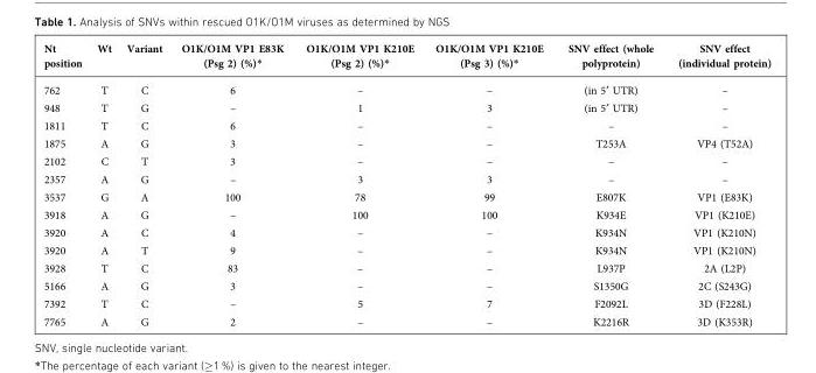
<table><thead><tr><td>Nt position</td><td>Wt</td><td>Variant</td><td>O1K/O1M VP1 E83K (Psg 2) (%)*</td><td>O1K/O1M VP1 K210E (Psg 2) (%)*</td><td>O1K/O1M VP1 K210E (Psg 3) (%)*</td><td>SNV effect (whole polyprotein)</td><td>SNV effect (individual protein)</td></tr></thead><tbody><tr><td>762</td><td>T</td><td>C</td><td>6</td><td>–</td><td>–</td><td>(in 5¢ UTR)</td><td>–</td></tr><tr><td>948</td><td>T</td><td>G</td><td>–</td><td>1</td><td>3</td><td>(in 5¢ UTR)</td><td>–</td></tr><tr><td>1811</td><td>T</td><td>C</td><td>6</td><td>–</td><td>–</td><td>–</td><td>–</td></tr><tr><td>1875</td><td>A</td><td>G</td><td>3</td><td>–</td><td>–</td><td>T253A</td><td>VP4 (T52A)</td></tr><tr><td>2102</td><td>C</td><td>T</td><td>3</td><td>–</td><td>–</td><td>–</td><td>–</td></tr><tr><td>2357</td><td>A</td><td>G</td><td>–</td><td>3</td><td>3</td><td>–</td><td>–</td></tr><tr><td>3537</td><td>G</td><td>A</td><td>100</td><td>78</td><td>99</td><td>E807K</td><td>VP1 (E83K)</td></tr><tr><td>3918</td><td>A</td><td>G</td><td>–</td><td>100</td><td>100</td><td>K934E</td><td>VP1 (K210E)</td></tr><tr><td>3920</td><td>A</td><td>C</td><td>4</td><td>–</td><td>–</td><td>K934N</td><td>VP1 (K210N)</td></tr><tr><td>3920</td><td>A</td><td>T</td><td>9</td><td>–</td><td>–</td><td>K934N</td><td>VP1 (K210N)</td></tr><tr><td>3928</td><td>T</td><td>C</td><td>83</td><td>–</td><td>–</td><td>L937P</td><td>2A (L2P)</td></tr><tr><td>5166</td><td>A</td><td>G</td><td>3</td><td>–</td><td>–</td><td>S1350G</td><td>2C (S243G)</td></tr><tr><td>7392</td><td>T</td><td>C</td><td>–</td><td>5</td><td>7</td><td>F2092L</td><td>3D (F228L)</td></tr><tr><td>7765</td><td>A</td><td>G</td><td>2</td><td>–</td><td>–</td><td>K2216R</td><td>3D (K353R)</td></tr></tbody></table>